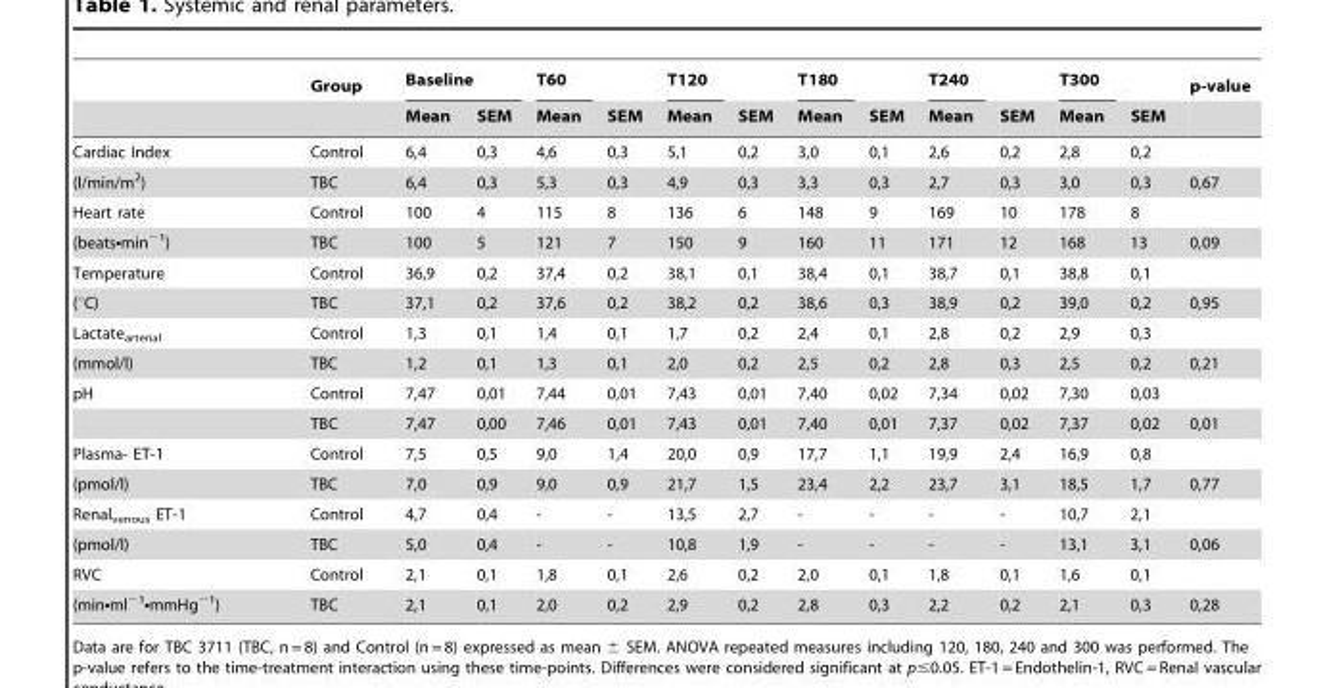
<table><thead><tr><td rowspan="2"></td><td rowspan="2">Group</td><td colspan="2">Baseline</td><td rowspan="2">T60 Mean</td><td rowspan="2">SEM</td><td rowspan="2">T120 Mean</td><td rowspan="2">SEM</td><td rowspan="2">T180 Mean</td><td rowspan="2">SEM</td><td rowspan="2">T240 Mean</td><td rowspan="2">SEM</td><td rowspan="2">T300 Mean</td><td rowspan="2">SEM</td><td rowspan="2">p-value</td></tr><tr><td>Mean</td><td>SEM</td></tr></thead><tbody><tr><td>Cardiac Index</td><td>Control</td><td>6,4</td><td>0,3</td><td>4,6</td><td>0,3</td><td>5,1</td><td>0,2</td><td>3,0</td><td>0,1</td><td>2,6</td><td>0,2</td><td>2,8</td><td>0,2</td><td></td></tr><tr><td>(l/min/m<sup>2</sup>)</td><td>TBC</td><td>6,4</td><td>0,3</td><td>5,3</td><td>0,3</td><td>4,9</td><td>0,3</td><td>3,3</td><td>0,3</td><td>2,7</td><td>0,3</td><td>3,0</td><td>0,3</td><td>0,67</td></tr><tr><td>Heart rate</td><td>Control</td><td>100</td><td>4</td><td>115</td><td>8</td><td>136</td><td>6</td><td>148</td><td>9</td><td>169</td><td>10</td><td>178</td><td>8</td><td></td></tr><tr><td>(beats•min<sup>−1</sup>)</td><td>TBC</td><td>100</td><td>5</td><td>121</td><td>7</td><td>150</td><td>9</td><td>160</td><td>11</td><td>171</td><td>12</td><td>168</td><td>13</td><td>0,09</td></tr><tr><td>Temperature</td><td>Control</td><td>36,9</td><td>0,2</td><td>37,4</td><td>0,2</td><td>38,1</td><td>0,1</td><td>38,4</td><td>0,1</td><td>38,7</td><td>0,1</td><td>38,8</td><td>0,1</td><td></td></tr><tr><td>(°C)</td><td>TBC</td><td>37,1</td><td>0,2</td><td>37,6</td><td>0,2</td><td>38,2</td><td>0,2</td><td>38,6</td><td>0,3</td><td>38,9</td><td>0,2</td><td>39,0</td><td>0,2</td><td>0,95</td></tr><tr><td>Lactate<sub>arterial</sub></td><td>Control</td><td>1,3</td><td>0,1</td><td>1,4</td><td>0,1</td><td>1,7</td><td>0,2</td><td>2,4</td><td>0,1</td><td>2,8</td><td>0,2</td><td>2,9</td><td>0,3</td><td></td></tr><tr><td>(mmol/l)</td><td>TBC</td><td>1,2</td><td>0,1</td><td>1,3</td><td>0,1</td><td>2,0</td><td>0,2</td><td>2,5</td><td>0,2</td><td>2,8</td><td>0,3</td><td>2,5</td><td>0,2</td><td>0,21</td></tr><tr><td rowspan="2">pH</td><td>Control</td><td>7,47</td><td>0,01</td><td>7,44</td><td>0,01</td><td>7,43</td><td>0,01</td><td>7,40</td><td>0,02</td><td>7,34</td><td>0,02</td><td>7,30</td><td>0,03</td><td></td></tr><tr><td>TBC</td><td>7,47</td><td>0,00</td><td>7,46</td><td>0,01</td><td>7,43</td><td>0,01</td><td>7,40</td><td>0,01</td><td>7,37</td><td>0,02</td><td>7,37</td><td>0,02</td><td>0,01</td></tr><tr><td>Plasma- ET-1</td><td>Control</td><td>7,5</td><td>0,5</td><td>9,0</td><td>1,4</td><td>20,0</td><td>0,9</td><td>17,7</td><td>1,1</td><td>19,9</td><td>2,4</td><td>16,9</td><td>0,8</td><td></td></tr><tr><td>(pmol/l)</td><td>TBC</td><td>7,0</td><td>0,9</td><td>9,0</td><td>0,9</td><td>21,7</td><td>1,5</td><td>23,4</td><td>2,2</td><td>23,7</td><td>3,1</td><td>18,5</td><td>1,7</td><td>0,77</td></tr><tr><td>Renal<sub>venous</sub> ET-1</td><td>Control</td><td>4,7</td><td>0,4</td><td>-</td><td>-</td><td>13,5</td><td>2,7</td><td>-</td><td>-</td><td>-</td><td>-</td><td>10,7</td><td>2,1</td><td></td></tr><tr><td>(pmol/l)</td><td>TBC</td><td>5,0</td><td>0,4</td><td>-</td><td>-</td><td>10,8</td><td>1,9</td><td>-</td><td>-</td><td>-</td><td>-</td><td>13,1</td><td>3,1</td><td>0,06</td></tr><tr><td>RVC</td><td>Control</td><td>2,1</td><td>0,1</td><td>1,8</td><td>0,1</td><td>2,6</td><td>0,2</td><td>2,0</td><td>0,1</td><td>1,8</td><td>0,1</td><td>1,6</td><td>0,1</td><td></td></tr><tr><td>(min•ml<sup>−1</sup>•mmHg<sup>−1</sup>)</td><td>TBC</td><td>2,1</td><td>0,1</td><td>2,0</td><td>0,2</td><td>2,9</td><td>0,2</td><td>2,8</td><td>0,3</td><td>2,2</td><td>0,2</td><td>2,1</td><td>0,3</td><td>0,28</td></tr></tbody></table>